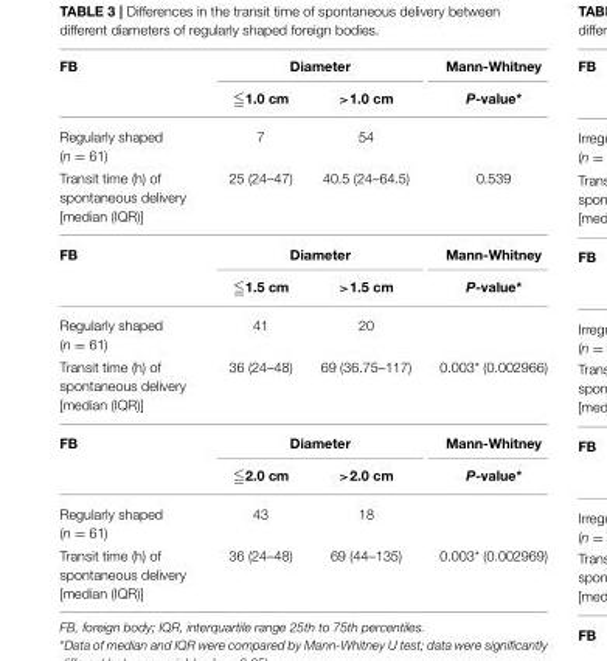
<table><thead><tr><td rowspan="2">FB</td><td colspan="2">Diameter</td><td rowspan="2">Mann-Whitney P-value*</td></tr><tr><td>≦1.0 cm</td><td>&gt;1.0 cm</td></tr></thead><tbody><tr><td>Regularly shaped (n = 61)</td><td>7</td><td>54</td><td></td></tr><tr><td>Transit time (h) of spontaneous delivery [median (IQR)]</td><td>25 (24–47)</td><td>40.5 (24–64.5)</td><td>0.539</td></tr><tr><td rowspan="2">FB</td><td colspan="2">Diameter</td><td>Mann-Whitney</td></tr><tr><td>≦1.5 cm</td><td>&gt;1.5 cm</td><td>P-value*</td></tr><tr><td>Regularly shaped (n = 61)</td><td>41</td><td>20</td><td></td></tr><tr><td>Transit time (h) of spontaneous delivery [median (IQR)]</td><td>36 (24–48)</td><td>69 (36.75–117)</td><td>0.003* (0.002966)</td></tr><tr><td rowspan="2">FB</td><td colspan="2">Diameter</td><td>Mann-Whitney</td></tr><tr><td>≦2.0 cm</td><td>&gt;2.0 cm</td><td>P-value*</td></tr><tr><td>Regularly shaped (n = 61)</td><td>43</td><td>18</td><td></td></tr><tr><td>Transit time (h) of spontaneous delivery [median (IQR)]</td><td>36 (24–48)</td><td>69 (44–135)</td><td>0.003* (0.002969)</td></tr></tbody></table>